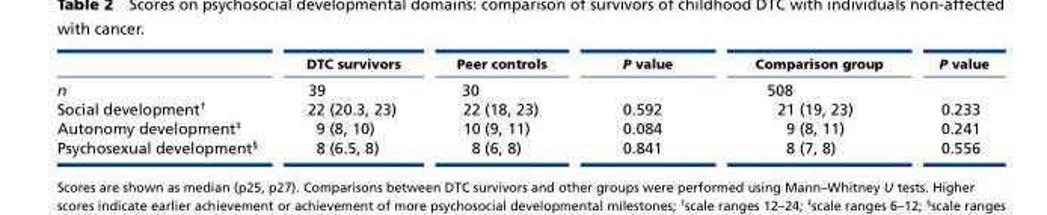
<table><thead><tr><td></td><td>DTC survivors</td><td>Peer controls</td><td>P value</td><td>Comparison group</td><td>P value</td></tr></thead><tbody><tr><td>n</td><td>39</td><td>30</td><td></td><td>508</td><td></td></tr><tr><td>Social development<sup>†</sup></td><td>22 (20.3, 23)</td><td>22 (18, 23)</td><td>0.592</td><td>21 (19, 23)</td><td>0.233</td></tr><tr><td>Autonomy development<sup>‡</sup></td><td>9 (8, 10)</td><td>10 (9, 11)</td><td>0.084</td><td>9 (8, 11)</td><td>0.241</td></tr><tr><td>Psychosexual development<sup>§</sup></td><td>8 (6.5, 8)</td><td>8 (6, 8)</td><td>0.841</td><td>8 (7, 8)</td><td>0.556</td></tr></tbody></table>